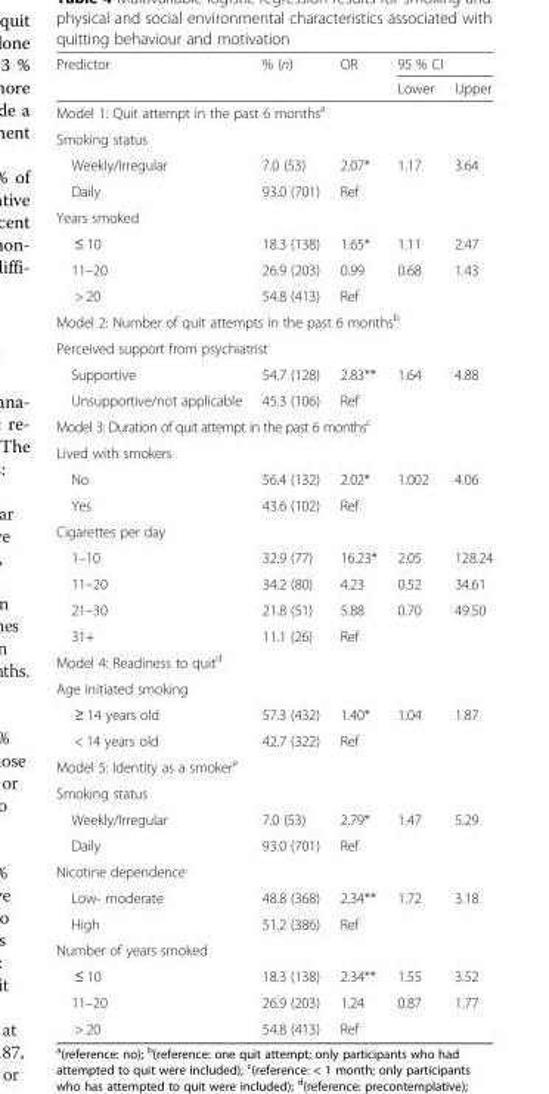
<table><thead><tr><td rowspan="2">Predictor</td><td rowspan="2">% (n)</td><td rowspan="2">OR</td><td colspan="2">95 % CI</td></tr><tr><td>Lower</td><td>Upper</td></tr></thead><tbody><tr><td colspan="5">Model 1: Quit attempt in the past 6 months<sup>a</sup></td></tr><tr><td colspan="5">Smoking status</td></tr><tr><td>Weekly/Irregular</td><td>7.0 (53)</td><td>2.07*</td><td>1.17</td><td>3.64</td></tr><tr><td>Daily</td><td>93.0 (701)</td><td>Ref</td><td></td><td></td></tr><tr><td colspan="5">Years smoked</td></tr><tr><td>≤ 10</td><td>18.3 (138)</td><td>1.65*</td><td>1.11</td><td>2.47</td></tr><tr><td>11–20</td><td>26.9 (203)</td><td>0.99</td><td>0.68</td><td>1.43</td></tr><tr><td>&gt; 20</td><td>54.8 (413)</td><td>Ref</td><td></td><td></td></tr><tr><td colspan="5">Model 2: Number of quit attempts in the past 6 months<sup>b</sup></td></tr><tr><td colspan="5">Perceived support from psychiatrist</td></tr><tr><td>Supportive</td><td>54.7 (128)</td><td>2.83**</td><td>1.64</td><td>4.88</td></tr><tr><td>Unsupportive/not applicable</td><td>45.3 (106)</td><td>Ref</td><td></td><td></td></tr><tr><td colspan="5">Model 3: Duration of quit attempt in the past 6 months<sup>c</sup></td></tr><tr><td colspan="5">Lived with smokers</td></tr><tr><td>No</td><td>56.4 (132)</td><td>2.02*</td><td>1.002</td><td>4.06</td></tr><tr><td>Yes</td><td>43.6 (102)</td><td>Ref</td><td></td><td></td></tr><tr><td colspan="5">Cigarettes per day</td></tr><tr><td>1–10</td><td>32.9 (77)</td><td>16.23*</td><td>2.05</td><td>128.24</td></tr><tr><td>11–20</td><td>34.2 (80)</td><td>4.23</td><td>0.52</td><td>34.61</td></tr><tr><td>21–30</td><td>21.8 (51)</td><td>5.88</td><td>0.70</td><td>49.50</td></tr><tr><td>31+</td><td>11.1 (26)</td><td>Ref</td><td></td><td></td></tr><tr><td colspan="5">Model 4: Readiness to quit<sup>d</sup></td></tr><tr><td colspan="5">Age initiated smoking</td></tr><tr><td>≥ 14 years old</td><td>57.3 (432)</td><td>1.40*</td><td>1.04</td><td>1.87</td></tr><tr><td>&lt; 14 years old</td><td>42.7 (322)</td><td>Ref</td><td></td><td></td></tr><tr><td colspan="5">Model 5: Identity as a smoker<sup>e</sup></td></tr><tr><td colspan="5">Smoking status</td></tr><tr><td>Weekly/Irregular</td><td>7.0 (53)</td><td>2.79*</td><td>1.47</td><td>5.29</td></tr><tr><td>Daily</td><td>93.0 (701)</td><td>Ref</td><td></td><td></td></tr><tr><td colspan="5">Nicotine dependence</td></tr><tr><td>Low- moderate</td><td>48.8 (368)</td><td>2.34**</td><td>1.72</td><td>3.18</td></tr><tr><td>High</td><td>51.2 (386)</td><td>Ref</td><td></td><td></td></tr><tr><td colspan="5">Number of years smoked</td></tr><tr><td>≤ 10</td><td>18.3 (138)</td><td>2.34**</td><td>1.55</td><td>3.52</td></tr><tr><td>11–20</td><td>26.9 (203)</td><td>1.24</td><td>0.87</td><td>1.77</td></tr><tr><td>&gt; 20</td><td>54.8 (413)</td><td>Ref</td><td></td><td></td></tr></tbody></table>